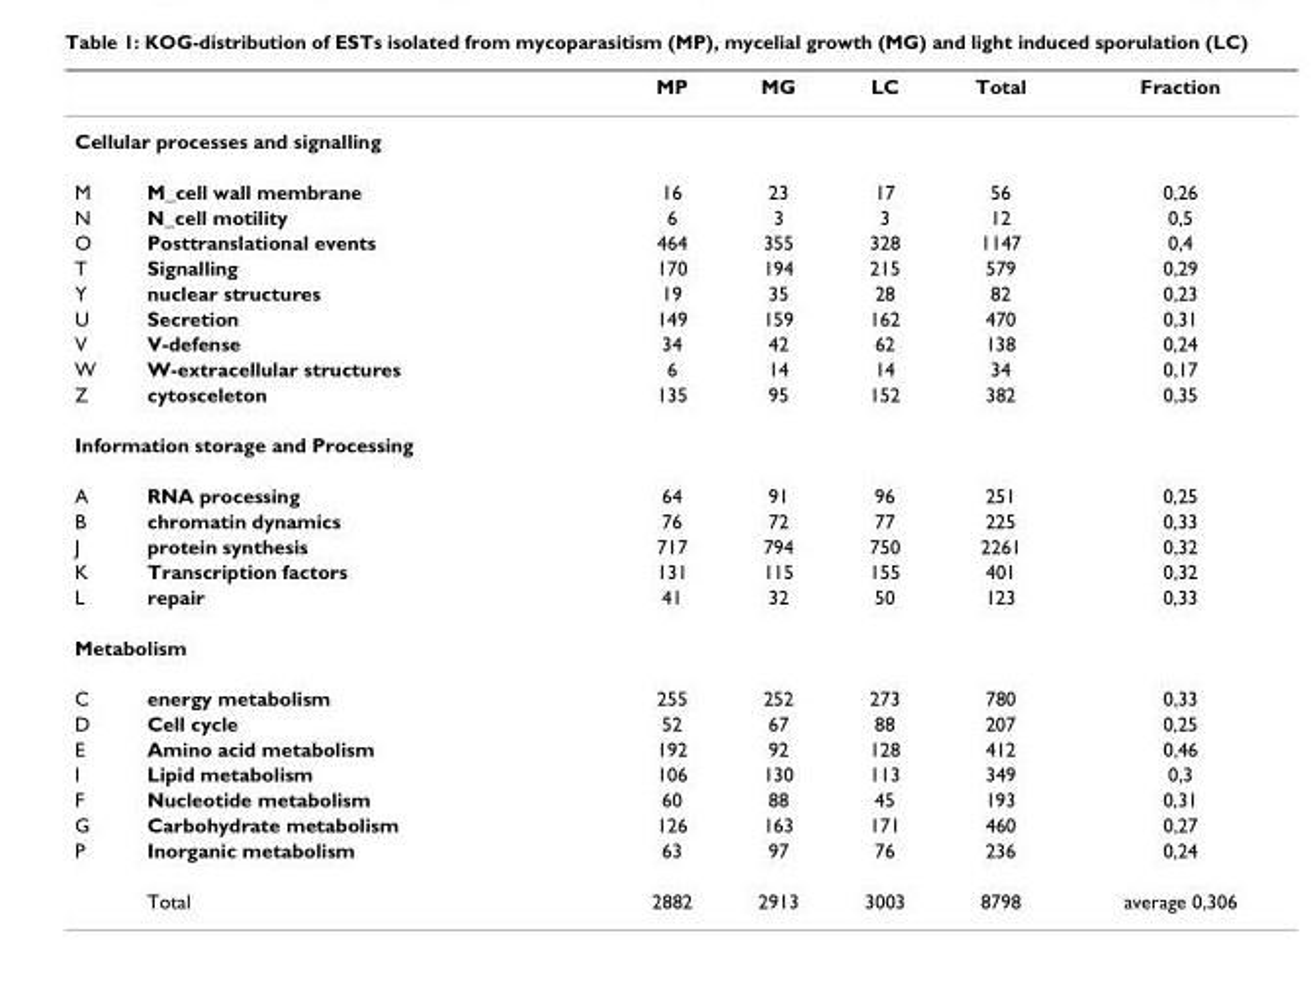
<table><thead><tr><td></td><td></td><td>MP</td><td>MG</td><td>LC</td><td>Total</td><td>Fraction</td></tr></thead><tbody><tr><td colspan="7">Cellular processes and signalling</td></tr><tr><td>M</td><td>M_cell wall membrane</td><td>16</td><td>23</td><td>17</td><td>56</td><td>0,26</td></tr><tr><td>N</td><td>N_cell motility</td><td>6</td><td>3</td><td>3</td><td>12</td><td>0,5</td></tr><tr><td>O</td><td>Posttranslational events</td><td>464</td><td>355</td><td>328</td><td>1147</td><td>0,4</td></tr><tr><td>T</td><td>Signalling</td><td>170</td><td>194</td><td>215</td><td>579</td><td>0,29</td></tr><tr><td>Y</td><td>nuclear structures</td><td>19</td><td>35</td><td>28</td><td>82</td><td>0,23</td></tr><tr><td>U</td><td>Secretion</td><td>149</td><td>159</td><td>162</td><td>470</td><td>0,31</td></tr><tr><td>V</td><td>V-defense</td><td>34</td><td>42</td><td>62</td><td>138</td><td>0,24</td></tr><tr><td>W</td><td>W-extracellular structures</td><td>6</td><td>14</td><td>14</td><td>34</td><td>0,17</td></tr><tr><td>Z</td><td>cytosceleton</td><td>135</td><td>95</td><td>152</td><td>382</td><td>0,35</td></tr><tr><td colspan="7">Information storage and Processing</td></tr><tr><td>A</td><td>RNA processing</td><td>64</td><td>91</td><td>96</td><td>251</td><td>0,25</td></tr><tr><td>B</td><td>chromatin dynamics</td><td>76</td><td>72</td><td>77</td><td>225</td><td>0,33</td></tr><tr><td>J</td><td>protein synthesis</td><td>717</td><td>794</td><td>750</td><td>2261</td><td>0,32</td></tr><tr><td>K</td><td>Transcription factors</td><td>131</td><td>115</td><td>155</td><td>401</td><td>0,32</td></tr><tr><td>L</td><td>repair</td><td>41</td><td>32</td><td>50</td><td>123</td><td>0,33</td></tr><tr><td colspan="7">Metabolism</td></tr><tr><td>C</td><td>energy metabolism</td><td>255</td><td>252</td><td>273</td><td>780</td><td>0,33</td></tr><tr><td>D</td><td>Cell cycle</td><td>52</td><td>67</td><td>88</td><td>207</td><td>0,25</td></tr><tr><td>E</td><td>Amino acid metabolism</td><td>192</td><td>92</td><td>128</td><td>412</td><td>0,46</td></tr><tr><td>I</td><td>Lipid metabolism</td><td>106</td><td>130</td><td>113</td><td>349</td><td>0,3</td></tr><tr><td>F</td><td>Nucleotide metabolism</td><td>60</td><td>88</td><td>45</td><td>193</td><td>0,31</td></tr><tr><td>G</td><td>Carbohydrate metabolism</td><td>126</td><td>163</td><td>171</td><td>460</td><td>0,27</td></tr><tr><td rowspan="2">P</td><td>Inorganic metabolism</td><td>63</td><td>97</td><td>76</td><td>236</td><td>0,24</td></tr><tr><td>Total</td><td>2882</td><td>2913</td><td>3003</td><td>8798</td><td>average 0,306</td></tr></tbody></table>